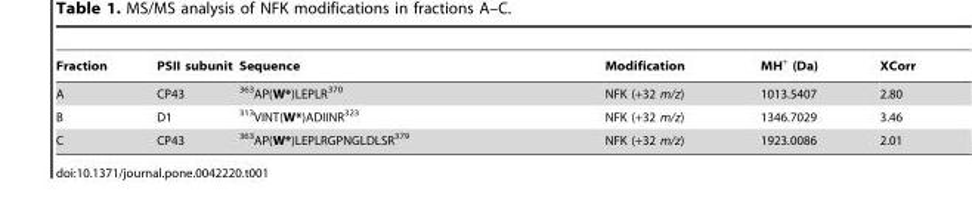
<table><thead><tr><td>Fraction</td><td>PSII subunit</td><td>Sequence</td><td>Modification</td><td>MH<sup>+</sup> (Da)</td><td>XCorr</td></tr></thead><tbody><tr><td>A</td><td>CP43</td><td><sup>363</sup>AP(W*)LEPLR<sup>370</sup></td><td>NFK (+32 m/z)</td><td>1013.5407</td><td>2.80</td></tr><tr><td>B</td><td>D1</td><td><sup>313</sup>VINT(W*)ADIINR<sup>323</sup></td><td>NFK (+32 m/z)</td><td>1346.7029</td><td>3.46</td></tr><tr><td>C</td><td>CP43</td><td><sup>363</sup>AP(W*)LEPLRGPNGLDLSR<sup>379</sup></td><td>NFK (+32 m/z)</td><td>1923.0086</td><td>2.01</td></tr></tbody></table>